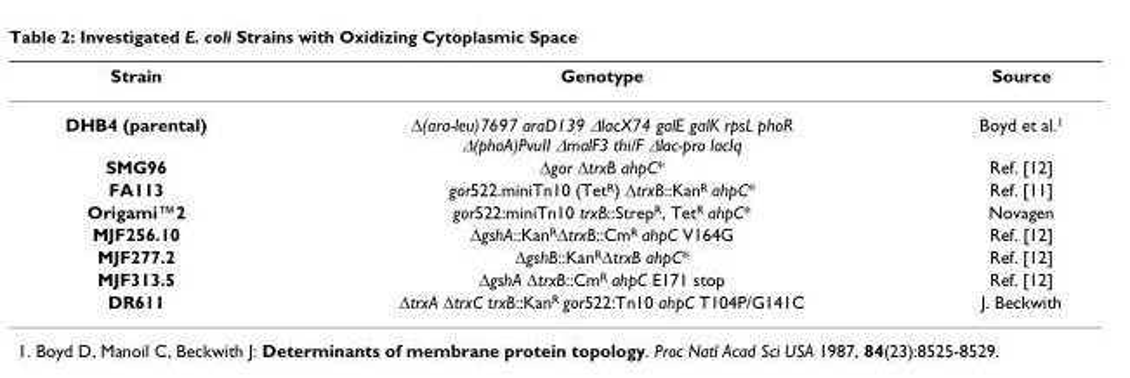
<table><thead><tr><td>Strain</td><td>Genotype</td><td>Source</td></tr></thead><tbody><tr><td>DHB4 (parental)</td><td>Δ(ara-leu)7697 araD139 ΔlacX74 galE galK rpsL phoR Δ(phoA)PvuII ΔmalF3 thi/F Δlac-pro lacIq</td><td>Boyd et al.<sup>1</sup></td></tr><tr><td>SMG96</td><td>Δgor ΔtrxB ahpC*</td><td>Ref. [12]</td></tr><tr><td>FA113</td><td>gor522.miniTn10 (Tet<sup>R</sup>) ΔtrxB::Kan<sup>R</sup> ahpC*</td><td>Ref. [11]</td></tr><tr><td>Origami™2</td><td>gor522:miniTn10 trxB::Strep<sup>R</sup>, Tet<sup>R</sup> ahpC*</td><td>Novagen</td></tr><tr><td>MJF256.10</td><td>ΔgshA::Kan<sup>R</sup>ΔtrxB::Cm<sup>R</sup> ahpC V164G</td><td>Ref. [12]</td></tr><tr><td>MJF277.2</td><td>ΔgshB::Kan<sup>R</sup>ΔtrxB ahpC*</td><td>Ref. [12]</td></tr><tr><td>MJF313.5</td><td>ΔgshA ΔtrxB::Cm<sup>R</sup> ahpC E171 stop</td><td>Ref. [12]</td></tr><tr><td>DR611</td><td>ΔtrxA ΔtrxC trxB::Kan<sup>R</sup> gor522:Tn10 ahpC T104P/G141C</td><td>J. Beckwith</td></tr></tbody></table>